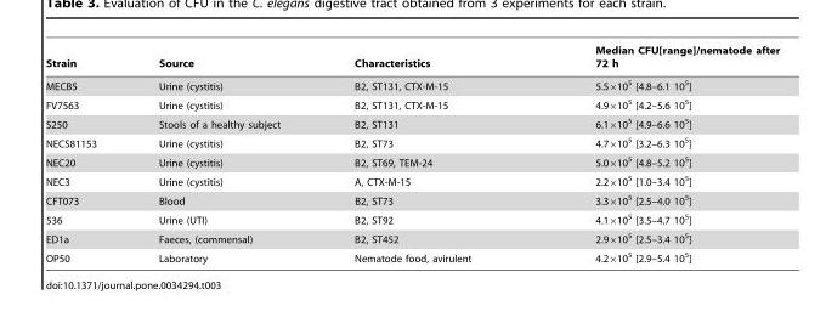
<table><thead><tr><td>Strain</td><td>Source</td><td>Characteristics</td><td>Median CFU[range]/nematode after 72 h</td></tr></thead><tbody><tr><td>MECB5</td><td>Urine (cystitis)</td><td>B2, ST131, CTX-M-15</td><td>5.5×10<sup>5</sup> [4.8–6.1 10<sup>5</sup>]</td></tr><tr><td>FV7563</td><td>Urine (cystitis)</td><td>B2, ST131, CTX-M-15</td><td>4.9×10<sup>5</sup> [4.2–5.6 10<sup>5</sup>]</td></tr><tr><td>S250</td><td>Stools of a healthy subject</td><td>B2, ST131</td><td>6.1×10<sup>5</sup> [4.9–6.6 10<sup>5</sup>]</td></tr><tr><td>NECS81153</td><td>Urine (cystitis)</td><td>B2, ST73</td><td>4.7×10<sup>5</sup> [3.2–6.3 10<sup>5</sup>]</td></tr><tr><td>NEC20</td><td>Urine (cystitis)</td><td>B2, ST69, TEM-24</td><td>5.0×10<sup>5</sup> [4.8–5.2 10<sup>5</sup>]</td></tr><tr><td>NEC3</td><td>Urine (cystitis)</td><td>A, CTX-M-15</td><td>2.2×10<sup>5</sup> [1.0–3.4 10<sup>5</sup>]</td></tr><tr><td>CFT073</td><td>Blood</td><td>B2, ST73</td><td>3.3×10<sup>5</sup> [2.5–4.0 10<sup>5</sup>]</td></tr><tr><td>536</td><td>Urine (UTI)</td><td>B2, ST92</td><td>4.1×10<sup>5</sup> [3.5–4.7 10<sup>5</sup>]</td></tr><tr><td>ED1a</td><td>Faeces, (commensal)</td><td>B2, ST452</td><td>2.9×10<sup>5</sup> [2.5–3.4 10<sup>5</sup>]</td></tr><tr><td>OP50</td><td>Laboratory</td><td>Nematode food, avirulent</td><td>4.2×10<sup>5</sup> [2.9–5.4 10<sup>5</sup>]</td></tr></tbody></table>